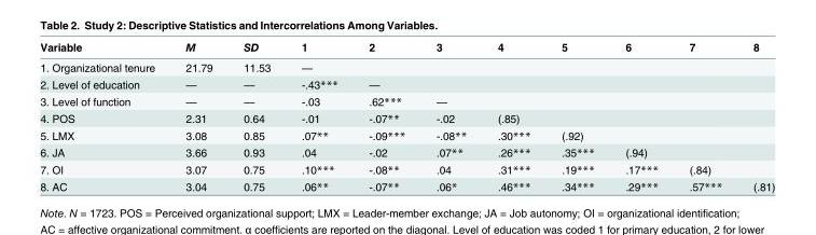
<table><thead><tr><td>Variable</td><td>M</td><td>SD</td><td>1</td><td>2</td><td>3</td><td>4</td><td>5</td><td>6</td><td>7</td><td>8</td></tr></thead><tbody><tr><td>1. Organizational tenure</td><td>21.79</td><td>11.53</td><td>—</td><td></td><td></td><td></td><td></td><td></td><td></td><td></td></tr><tr><td>2. Level of education</td><td>—</td><td>—</td><td>-.43***</td><td>—</td><td></td><td></td><td></td><td></td><td></td><td></td></tr><tr><td>3. Level of function</td><td>—</td><td>—</td><td>-.03</td><td>.62***</td><td>—</td><td></td><td></td><td></td><td></td><td></td></tr><tr><td>4. POS</td><td>2.31</td><td>0.64</td><td>-.01</td><td>-.07**</td><td>-.02</td><td>(.85)</td><td></td><td></td><td></td><td></td></tr><tr><td>5. LMX</td><td>3.08</td><td>0.85</td><td>.07**</td><td>-.09***</td><td>-.08**</td><td>.30***</td><td>(.92)</td><td></td><td></td><td></td></tr><tr><td>6. JA</td><td>3.66</td><td>0.93</td><td>.04</td><td>-.02</td><td>.07**</td><td>.26***</td><td>.35***</td><td>(.94)</td><td></td><td></td></tr><tr><td>7. OI</td><td>3.07</td><td>0.75</td><td>.10***</td><td>-.08**</td><td>.04</td><td>.31***</td><td>.19***</td><td>.17***</td><td>(.84)</td><td></td></tr><tr><td>8. AC</td><td>3.04</td><td>0.75</td><td>.06**</td><td>-.07**</td><td>.06*</td><td>.46***</td><td>.34***</td><td>.29***</td><td>.57***</td><td>(.81)</td></tr></tbody></table>